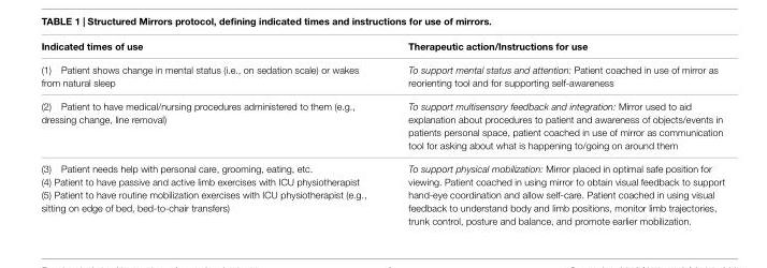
<table><thead><tr><td>Indicated times of use</td><td>Therapeutic action/Instructions for use</td></tr></thead><tbody><tr><td>(1) Patient shows change in mental status (i.e., on sedation scale) or wakes from natural sleep</td><td>To support mental status and attention: Patient coached in use of mirror as reorienting tool and for supporting self-awareness</td></tr><tr><td>(2) Patient to have medical/nursing procedures administered to them (e.g., dressing change, line removal)</td><td>To support multisensory feedback and integration: Mirror used to aid explanation about procedures to patient and awareness of objects/events in patients personal space, patient coached in use of mirror as communication tool for asking about what is happening to/going on around them</td></tr><tr><td>(3) Patient needs help with personal care, grooming, eating, etc. (4) Patient to have passive and active limb exercises with ICU physiotherapist (5) Patient to have routine mobilization exercises with ICU physiotherapist (e.g., sitting on edge of bed, bed-to-chair transfers)</td><td>To support physical mobilization: Mirror placed in optimal safe position for viewing. Patient coached in using mirror to obtain visual feedback to support hand-eye coordination and allow self-care. Patient coached in using visual feedback to understand body and limb positions, monitor limb trajectories, trunk control, posture and balance, and promote earlier mobilization.</td></tr></tbody></table>